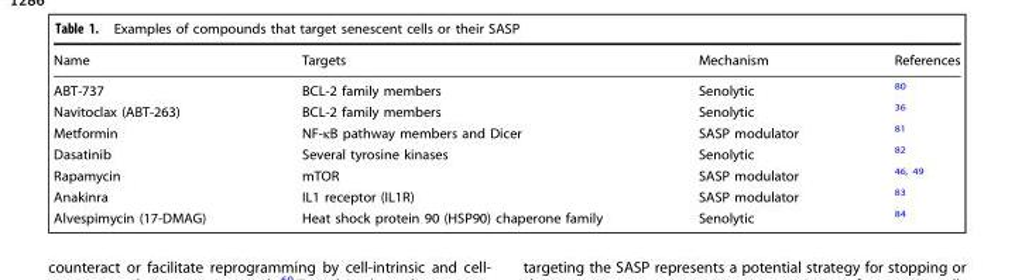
<table><thead><tr><td>Name</td><td>Targets</td><td>Mechanism</td><td>References</td></tr></thead><tbody><tr><td>ABT-737</td><td>BCL-2 family members</td><td>Senolytic</td><td><sup>80</sup></td></tr><tr><td>Navitoclax (ABT-263)</td><td>BCL-2 family members</td><td>Senolytic</td><td><sup>36</sup></td></tr><tr><td>Metformin</td><td>NF-κB pathway members and Dicer</td><td>SASP modulator</td><td><sup>81</sup></td></tr><tr><td>Dasatinib</td><td>Several tyrosine kinases</td><td>Senolytic</td><td><sup>82</sup></td></tr><tr><td>Rapamycin</td><td>mTOR</td><td>SASP modulator</td><td><sup>46, 49</sup></td></tr><tr><td>Anakinra</td><td>IL1 receptor (IL1R)</td><td>SASP modulator</td><td><sup>83</sup></td></tr><tr><td>Alvespimycin (17-DMAG)</td><td>Heat shock protein 90 (HSP90) chaperone family</td><td>Senolytic</td><td><sup>84</sup></td></tr></tbody></table>